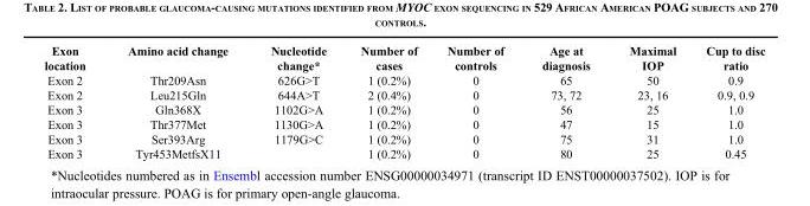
<table><thead><tr><td>Exon location</td><td>Amino acid change</td><td>Nucleotide change*</td><td>Number of cases</td><td>Number of controls</td><td>Age at diagnosis</td><td>Maximal IOP</td><td>Cup to disc ratio</td></tr></thead><tbody><tr><td>Exon 2</td><td>Thr209Asn</td><td>626G&gt;T</td><td>1 (0.2%)</td><td>0</td><td>65</td><td>50</td><td>0.9</td></tr><tr><td>Exon 2</td><td>Leu215Gln</td><td>644A&gt;T</td><td>2 (0.4%)</td><td>0</td><td>73, 72</td><td>23, 16</td><td>0.9, 0.9</td></tr><tr><td>Exon 3</td><td>Gln368X</td><td>1102G&gt;A</td><td>1 (0.2%)</td><td>0</td><td>56</td><td>25</td><td>1.0</td></tr><tr><td>Exon 3</td><td>Thr377Met</td><td>1130G&gt;A</td><td>1 (0.2%)</td><td>0</td><td>47</td><td>15</td><td>1.0</td></tr><tr><td>Exon 3</td><td>Ser393Arg</td><td>1179G&gt;C</td><td>1 (0.2%)</td><td>0</td><td>75</td><td>31</td><td>1.0</td></tr><tr><td>Exon 3</td><td>Tyr453MetfsX11</td><td></td><td>1 (0.2%)</td><td>0</td><td>80</td><td>25</td><td>0.45</td></tr></tbody></table>